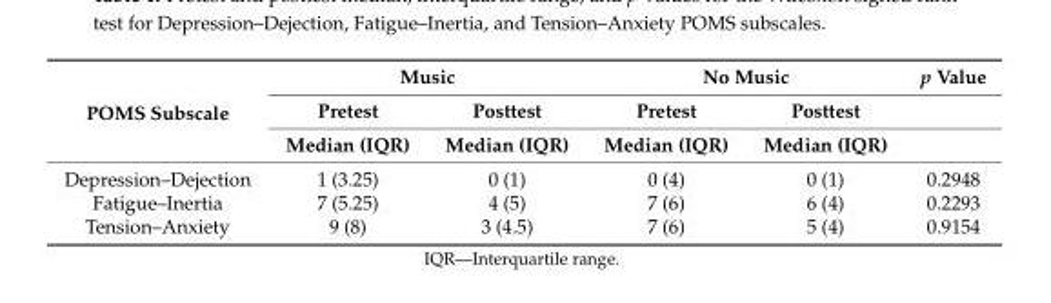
<table><thead><tr><td rowspan="3">POMS Subscale</td><td colspan="2">Music</td><td colspan="2">No Music</td><td rowspan="3">p Value</td></tr><tr><td rowspan="2">Pretest Median (IQR)</td><td rowspan="2">Posttest Median (IQR)</td><td rowspan="2">Pretest Median (IQR)</td><td rowspan="2">Posttest Median (IQR)</td></tr><tr></tr></thead><tbody><tr><td>Depression–Dejection</td><td>1 (3.25)</td><td>0 (1)</td><td>0 (4)</td><td>0 (1)</td><td>0.2948</td></tr><tr><td>Fatigue–Inertia</td><td>7 (5.25)</td><td>4 (5)</td><td>7 (6)</td><td>6 (4)</td><td>0.2293</td></tr><tr><td>Tension–Anxiety</td><td>9 (8)</td><td>3 (4.5)</td><td>7 (6)</td><td>5 (4)</td><td>0.9154</td></tr></tbody></table>